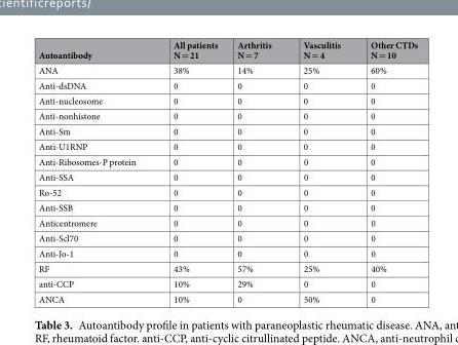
<table><thead><tr><td>Autoantibody</td><td>All patients N = 21</td><td>Arthritis N = 7</td><td>Vasculitis N = 4</td><td>Other CTDs N = 10</td></tr></thead><tbody><tr><td>ANA</td><td>38%</td><td>14%</td><td>25%</td><td>60%</td></tr><tr><td>Anti-dsDNA</td><td>0</td><td>0</td><td>0</td><td>0</td></tr><tr><td>Anti-nucleosome</td><td>0</td><td>0</td><td>0</td><td>0</td></tr><tr><td>Anti-nonhistone</td><td>0</td><td>0</td><td>0</td><td>0</td></tr><tr><td>Anti-Sm</td><td>0</td><td>0</td><td>0</td><td>0</td></tr><tr><td>Anti-U1RNP</td><td>0</td><td>0</td><td>0</td><td>0</td></tr><tr><td>Anti-Ribosomes-P protein</td><td>0</td><td>0</td><td>0</td><td>0</td></tr><tr><td>Anti-SSA</td><td>0</td><td>0</td><td>0</td><td>0</td></tr><tr><td>Ro-52</td><td>0</td><td>0</td><td>0</td><td>0</td></tr><tr><td>Anti-SSB</td><td>0</td><td>0</td><td>0</td><td>0</td></tr><tr><td>Anticentromere</td><td>0</td><td>0</td><td>0</td><td>0</td></tr><tr><td>Anti-Scl70</td><td>0</td><td>0</td><td>0</td><td>0</td></tr><tr><td>Anti-Jo-1</td><td>0</td><td>0</td><td>0</td><td>0</td></tr><tr><td>RF</td><td>43%</td><td>57%</td><td>25%</td><td>40%</td></tr><tr><td>anti-CCP</td><td>10%</td><td>29%</td><td>0</td><td>0</td></tr><tr><td>ANCA</td><td>10%</td><td>0</td><td>50%</td><td>0</td></tr></tbody></table>